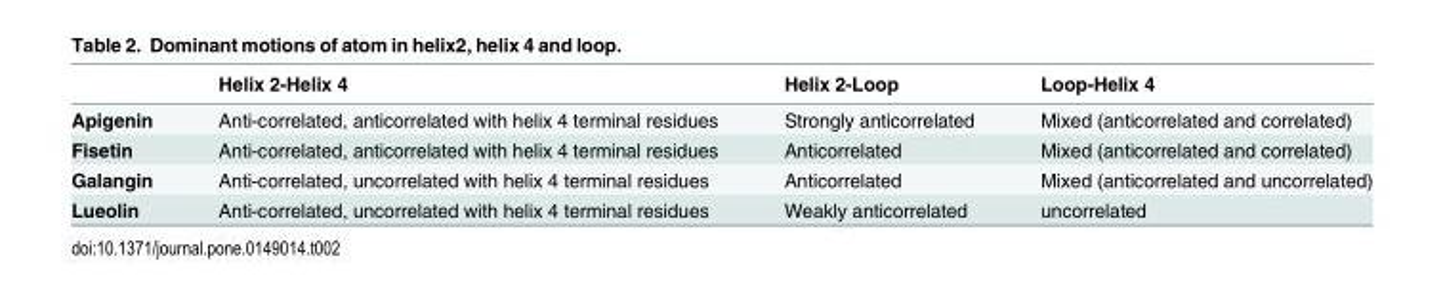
<table><thead><tr><td></td><td>Helix 2-Helix 4</td><td>Helix 2-Loop</td><td>Loop-Helix 4</td></tr></thead><tbody><tr><td>Apigenin</td><td>Anti-correlated, anticorrelated with helix 4 terminal residues</td><td>Strongly anticorrelated</td><td>Mixed (anticorrelated and correlated)</td></tr><tr><td>Fisetin</td><td>Anti-correlated, anticorrelated with helix 4 terminal residues</td><td>Anticorrelated</td><td>Mixed (anticorrelated and correlated)</td></tr><tr><td>Galangin</td><td>Anti-correlated, uncorrelated with helix 4 terminal residues</td><td>Anticorrelated</td><td>Mixed (anticorrelated and uncorrelated)</td></tr><tr><td>Lueolin</td><td>Anti-correlated, uncorrelated with helix 4 terminal residues</td><td>Weakly anticorrelated</td><td>uncorrelated</td></tr></tbody></table>